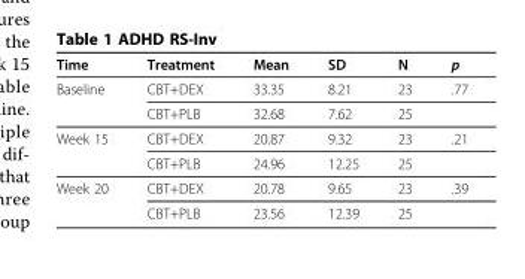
<table><thead><tr><td>Time</td><td>Treatment</td><td>Mean</td><td>SD</td><td>N</td><td>p</td></tr></thead><tbody><tr><td rowspan="2">Baseline</td><td>CBT+DEX</td><td>33.35</td><td>8.21</td><td>23</td><td>.77</td></tr><tr><td>CBT+PLB</td><td>32.68</td><td>7.62</td><td>25</td><td></td></tr><tr><td rowspan="2">Week 15</td><td>CBT+DEX</td><td>20.87</td><td>9.32</td><td>23</td><td>.21</td></tr><tr><td>CBT+PLB</td><td>24.96</td><td>12.25</td><td>25</td><td></td></tr><tr><td rowspan="2">Week 20</td><td>CBT+DEX</td><td>20.78</td><td>9.65</td><td>23</td><td>.39</td></tr><tr><td>CBT+PLB</td><td>23.56</td><td>12.39</td><td>25</td><td></td></tr></tbody></table>